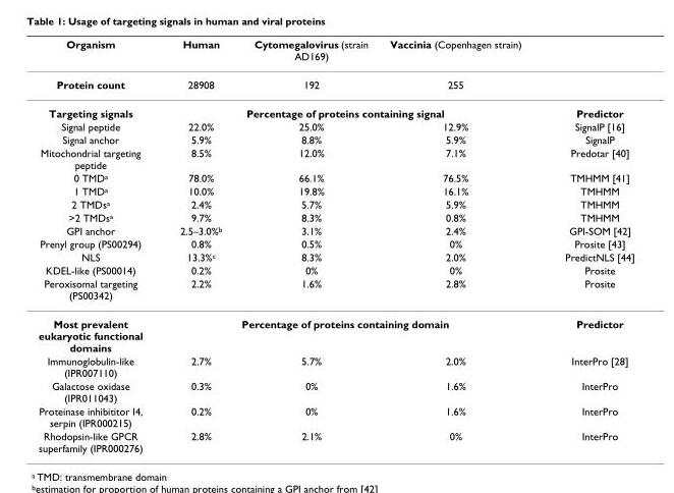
<table><thead><tr><td>Organism</td><td>Human</td><td>Cytomegalovirus (strain AD169)</td><td>Vaccinia (Copenhagen strain)</td><td></td></tr></thead><tbody><tr><td>Protein count</td><td>28908</td><td>192</td><td>255</td><td></td></tr><tr><td>Targeting signals</td><td colspan="3">Percentage of proteins containing signal</td><td>Predictor</td></tr><tr><td>Signal peptide</td><td>22.0%</td><td>25.0%</td><td>12.9%</td><td>SignalP [16]</td></tr><tr><td>Signal anchor</td><td>5.9%</td><td>8.8%</td><td>5.9%</td><td>SignalP</td></tr><tr><td>Mitochondrial targeting peptide</td><td>8.5%</td><td>12.0%</td><td>7.1%</td><td>Predotar [40]</td></tr><tr><td>0 TMD<sup>a</sup></td><td>78.0%</td><td>66.1%</td><td>76.5%</td><td>TMHMM [41]</td></tr><tr><td>1 TMD<sup>a</sup></td><td>10.0%</td><td>19.8%</td><td>16.1%</td><td>TMHMM</td></tr><tr><td>2 TMDs<sup>a</sup></td><td>2.4%</td><td>5.7%</td><td>5.9%</td><td>TMHMM</td></tr><tr><td>&gt;2 TMDs<sup>a</sup></td><td>9.7%</td><td>8.3%</td><td>0.8%</td><td>TMHMM</td></tr><tr><td>GPI anchor</td><td>2.5–3.0%<sup>b</sup></td><td>3.1%</td><td>2.4%</td><td>GPI-SOM [42]</td></tr><tr><td>Prenyl group (PS00294)</td><td>0.8%</td><td>0.5%</td><td>0%</td><td>Prosite [43]</td></tr><tr><td>NLS</td><td>13.3%<sup>c</sup></td><td>8.3%</td><td>2.0%</td><td>PredictNLS [44]</td></tr><tr><td>KDEL-like (PS00014)</td><td>0.2%</td><td>0%</td><td>0%</td><td>Prosite</td></tr><tr><td>Peroxisomal targeting (PS00342)</td><td>2.2%</td><td>1.6%</td><td>2.8%</td><td>Prosite</td></tr><tr><td>Most prevalent eukaryotic functional domains</td><td colspan="3">Percentage of proteins containing domain</td><td>Predictor</td></tr><tr><td>Immunoglobulin-like (IPR007110)</td><td>2.7%</td><td>5.7%</td><td>2.0%</td><td>InterPro [28]</td></tr><tr><td>Galactose oxidase (IPR011043)</td><td>0.3%</td><td>0%</td><td>1.6%</td><td>InterPro</td></tr><tr><td>Proteinase inhibititor I4, serpin (IPR000215)</td><td>0.2%</td><td>0%</td><td>1.6%</td><td>InterPro</td></tr><tr><td>Rhodopsin-like GPCR superfamily (IPR000276)</td><td>2.8%</td><td>2.1%</td><td>0%</td><td>InterPro</td></tr></tbody></table>